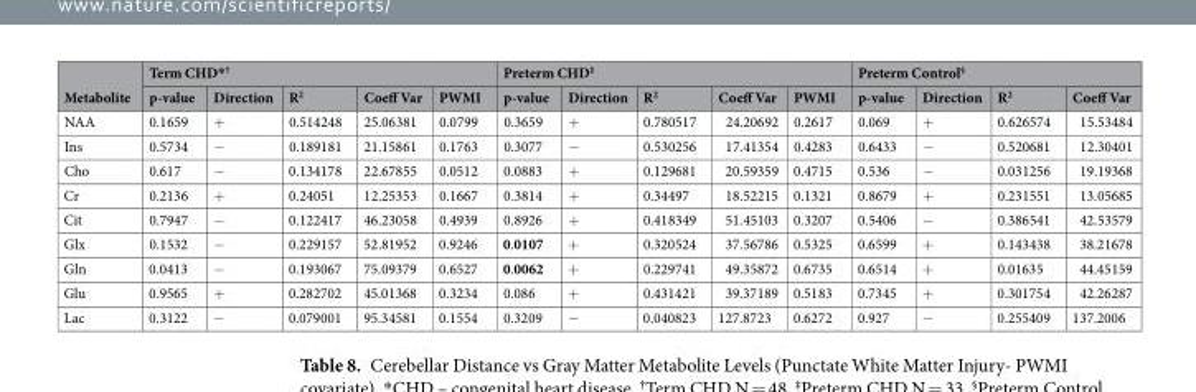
<table><thead><tr><td rowspan="2">Metabolite</td><td colspan="5">Term CHD*<sup>†</sup></td><td colspan="5">Preterm CHD<sup>‡</sup></td><td colspan="4">Preterm Control<sup>§</sup></td></tr><tr><td>p-value</td><td>Direction</td><td>R<sup>2</sup></td><td>Coeff Var</td><td>PWMI</td><td>p-value</td><td>Direction</td><td>R<sup>2</sup></td><td>Coeff Var</td><td>PWMI</td><td>p-value</td><td>Direction</td><td>R<sup>2</sup></td><td>Coeff Var</td></tr></thead><tbody><tr><td>NAA</td><td>0.1659</td><td>+</td><td>0.514248</td><td>25.06381</td><td>0.0799</td><td>0.3659</td><td>+</td><td>0.780517</td><td>24.20692</td><td>0.2617</td><td>0.069</td><td>+</td><td>0.626574</td><td>15.53484</td></tr><tr><td>Ins</td><td>0.5734</td><td>−</td><td>0.189181</td><td>21.15861</td><td>0.1763</td><td>0.3077</td><td>−</td><td>0.530256</td><td>17.41354</td><td>0.4283</td><td>0.6433</td><td>−</td><td>0.520681</td><td>12.30401</td></tr><tr><td>Cho</td><td>0.617</td><td>−</td><td>0.134178</td><td>22.67855</td><td>0.0512</td><td>0.0883</td><td>+</td><td>0.129681</td><td>20.59359</td><td>0.4715</td><td>0.536</td><td>−</td><td>0.031256</td><td>19.19368</td></tr><tr><td>Cr</td><td>0.2136</td><td>+</td><td>0.24051</td><td>12.25353</td><td>0.1667</td><td>0.3814</td><td>+</td><td>0.34497</td><td>18.52215</td><td>0.1321</td><td>0.8679</td><td>+</td><td>0.231551</td><td>13.05685</td></tr><tr><td>Cit</td><td>0.7947</td><td>−</td><td>0.122417</td><td>46.23058</td><td>0.4939</td><td>0.8926</td><td>+</td><td>0.418349</td><td>51.45103</td><td>0.3207</td><td>0.5406</td><td>−</td><td>0.386541</td><td>42.53579</td></tr><tr><td>Glx</td><td>0.1532</td><td>−</td><td>0.229157</td><td>52.81952</td><td>0.9246</td><td>0.0107</td><td>+</td><td>0.320524</td><td>37.56786</td><td>0.5325</td><td>0.6599</td><td>+</td><td>0.143438</td><td>38.21678</td></tr><tr><td>Gln</td><td>0.0413</td><td>−</td><td>0.193067</td><td>75.09379</td><td>0.6527</td><td>0.0062</td><td>+</td><td>0.229741</td><td>49.35872</td><td>0.6735</td><td>0.6514</td><td>+</td><td>0.01635</td><td>44.45159</td></tr><tr><td>Glu</td><td>0.9565</td><td>+</td><td>0.282702</td><td>45.01368</td><td>0.3234</td><td>0.086</td><td>+</td><td>0.431421</td><td>39.37189</td><td>0.5183</td><td>0.7345</td><td>+</td><td>0.301754</td><td>42.26287</td></tr><tr><td>Lac</td><td>0.3122</td><td>−</td><td>0.079001</td><td>95.34581</td><td>0.1554</td><td>0.3209</td><td>−</td><td>0.040823</td><td>127.8723</td><td>0.6272</td><td>0.927</td><td>−</td><td>0.255409</td><td>137.2006</td></tr></tbody></table>